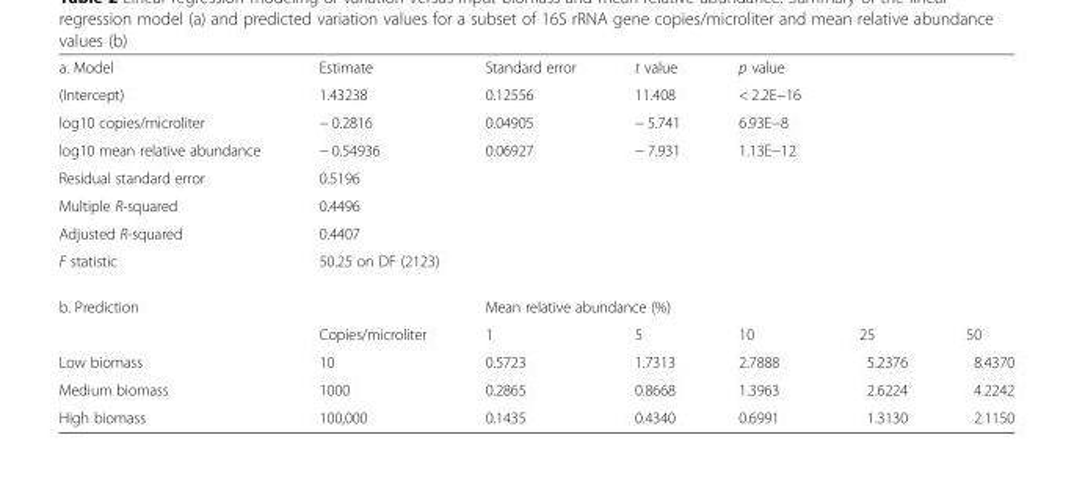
<table><tbody><tr><td>a. Model</td><td>Estimate</td><td>Standard error</td><td>t value</td><td>p value</td><td></td><td></td></tr><tr><td>(Intercept)</td><td>1.43238</td><td>0.12556</td><td>11.408</td><td>&lt; 2.2E−16</td><td></td><td></td></tr><tr><td>log10 copies/microliter</td><td>− 0.2816</td><td>0.04905</td><td>− 5.741</td><td>6.93E−8</td><td></td><td></td></tr><tr><td>log10 mean relative abundance</td><td>− 0.54936</td><td>0.06927</td><td>− 7.931</td><td>1.13E−12</td><td></td><td></td></tr><tr><td>Residual standard error</td><td>0.5196</td><td></td><td></td><td></td><td></td><td></td></tr><tr><td>Multiple R-squared</td><td>0.4496</td><td></td><td></td><td></td><td></td><td></td></tr><tr><td>Adjusted R-squared</td><td>0.4407</td><td></td><td></td><td></td><td></td><td></td></tr><tr><td>F statistic</td><td colspan="2">50.25 on DF (2123)</td><td></td><td></td><td></td><td></td></tr><tr><td rowspan="2">b. Prediction</td><td></td><td colspan="5">Mean relative abundance (%)</td></tr><tr><td>Copies/microliter</td><td>1</td><td>5</td><td>10</td><td>25</td><td>50</td></tr><tr><td>Low biomass</td><td>10</td><td>0.5723</td><td>1.7313</td><td>2.7888</td><td>5.2376</td><td>8.4370</td></tr><tr><td>Medium biomass</td><td>1000</td><td>0.2865</td><td>0.8668</td><td>1.3963</td><td>2.6224</td><td>4.2242</td></tr><tr><td>High biomass</td><td>100,000</td><td>0.1435</td><td>0.4340</td><td>0.6991</td><td>1.3130</td><td>2.1150</td></tr></tbody></table>